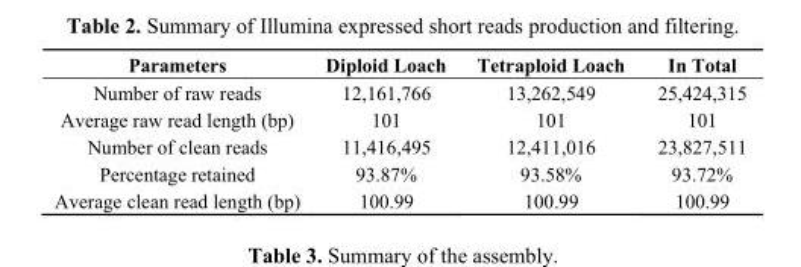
<table><thead><tr><td>Parameters</td><td>Diploid Loach</td><td>Tetraploid Loach</td><td>In Total</td></tr></thead><tbody><tr><td>Number of raw reads</td><td>12,161,766</td><td>13,262,549</td><td>25,424,315</td></tr><tr><td>Average raw read length (bp)</td><td>101</td><td>101</td><td>101</td></tr><tr><td>Number of clean reads</td><td>11,416,495</td><td>12,411,016</td><td>23,827,511</td></tr><tr><td>Percentage retained</td><td>93.87%</td><td>93.58%</td><td>93.72%</td></tr><tr><td>Average clean read length (bp)</td><td>100.99</td><td>100.99</td><td>100.99</td></tr></tbody></table>